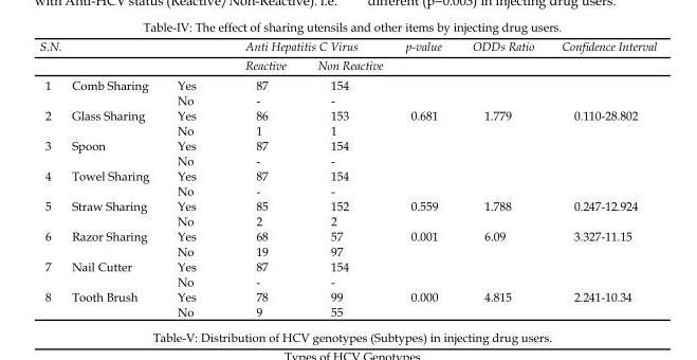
<table><thead><tr><td rowspan="2">S.N.</td><td rowspan="2"></td><td rowspan="2"></td><td colspan="2">Anti Hepatitis C Virus</td><td rowspan="2">p-value</td><td rowspan="2">ODDs Ratio</td><td rowspan="2">Confidence Interval</td></tr><tr><td>Reactive</td><td>Non Reactive</td></tr></thead><tbody><tr><td rowspan="2">1</td><td rowspan="2">Comb Sharing</td><td>Yes</td><td>87</td><td>154</td><td></td><td></td><td></td></tr><tr><td>No</td><td>-</td><td>-</td><td></td><td></td><td></td></tr><tr><td rowspan="2">2</td><td rowspan="2">Glass Sharing</td><td>Yes</td><td>86</td><td>153</td><td>0.681</td><td>1.779</td><td>0.110-28.802</td></tr><tr><td>No</td><td>1</td><td>1</td><td></td><td></td><td></td></tr><tr><td rowspan="2">3</td><td rowspan="2">Spoon</td><td>Yes</td><td>87</td><td>154</td><td></td><td></td><td></td></tr><tr><td>No</td><td>-</td><td>-</td><td></td><td></td><td></td></tr><tr><td rowspan="2">4</td><td rowspan="2">Towel Sharing</td><td>Yes</td><td>87</td><td>154</td><td></td><td></td><td></td></tr><tr><td>No</td><td>-</td><td>-</td><td></td><td></td><td></td></tr><tr><td rowspan="2">5</td><td rowspan="2">Straw Sharing</td><td>Yes</td><td>85</td><td>152</td><td>0.559</td><td>1.788</td><td>0.247-12.924</td></tr><tr><td>No</td><td>2</td><td>2</td><td></td><td></td><td></td></tr><tr><td rowspan="2">6</td><td rowspan="2">Razor Sharing</td><td>Yes</td><td>68</td><td>57</td><td>0.001</td><td>6.09</td><td>3.327-11.15</td></tr><tr><td>No</td><td>19</td><td>97</td><td></td><td></td><td></td></tr><tr><td rowspan="2">7</td><td rowspan="2">Nail Cutter</td><td>Yes</td><td>87</td><td>154</td><td></td><td></td><td></td></tr><tr><td>No</td><td>-</td><td>-</td><td></td><td></td><td></td></tr><tr><td rowspan="2">8</td><td rowspan="2">Tooth Brush</td><td>Yes</td><td>78</td><td>99</td><td>0.000</td><td>4.815</td><td>2.241-10.34</td></tr><tr><td>No</td><td>9</td><td>55</td><td></td><td></td><td></td></tr></tbody></table>